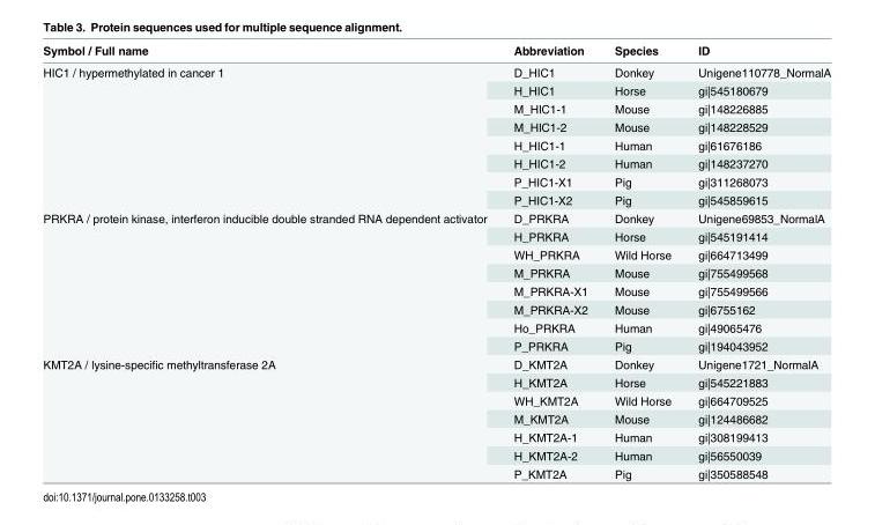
<table><thead><tr><td>Symbol / Full name</td><td>Abbreviation</td><td>Species</td><td>ID</td></tr></thead><tbody><tr><td rowspan="8">HIC1 / hypermethylated in cancer 1</td><td>D_HIC1</td><td>Donkey</td><td>Unigene110778_NormalA</td></tr><tr><td>H_HIC1</td><td>Horse</td><td>gi|545180679</td></tr><tr><td>M_HIC1-1</td><td>Mouse</td><td>gi|148226885</td></tr><tr><td>M_HIC1-2</td><td>Mouse</td><td>gi|148228529</td></tr><tr><td>H_HIC1-1</td><td>Human</td><td>gi|61676186</td></tr><tr><td>H_HIC1-2</td><td>Human</td><td>gi|148237270</td></tr><tr><td>P_HIC1-X1</td><td>Pig</td><td>gi|311268073</td></tr><tr><td>P_HIC1-X2</td><td>Pig</td><td>gi|545859615</td></tr><tr><td rowspan="8">PRKRA / protein kinase, interferon inducible double stranded RNA dependent activator</td><td>D_PRKRA</td><td>Donkey</td><td>Unigene69853_NormalA</td></tr><tr><td>H_PRKRA</td><td>Horse</td><td>gi|545191414</td></tr><tr><td>WH_PRKRA</td><td>Wild Horse</td><td>gi|664713499</td></tr><tr><td>M_PRKRA</td><td>Mouse</td><td>gi|755499568</td></tr><tr><td>M_PRKRA-X1</td><td>Mouse</td><td>gi|755499566</td></tr><tr><td>M_PRKRA-X2</td><td>Mouse</td><td>gi|6755162</td></tr><tr><td>Ho_PRKRA</td><td>Human</td><td>gi|49065476</td></tr><tr><td>P_PRKRA</td><td>Pig</td><td>gi|194043952</td></tr><tr><td rowspan="7">KMT2A / lysine-specific methyltransferase 2A</td><td>D_KMT2A</td><td>Donkey</td><td>Unigene1721_NormalA</td></tr><tr><td>H_KMT2A</td><td>Horse</td><td>gi|545221883</td></tr><tr><td>WH_KMT2A</td><td>Wild Horse</td><td>gi|664709525</td></tr><tr><td>M_KMT2A</td><td>Mouse</td><td>gi|124486682</td></tr><tr><td>H_KMT2A-1</td><td>Human</td><td>gi|308199413</td></tr><tr><td>H_KMT2A-2</td><td>Human</td><td>gi|56550039</td></tr><tr><td>P_KMT2A</td><td>Pig</td><td>gi|350588548</td></tr></tbody></table>